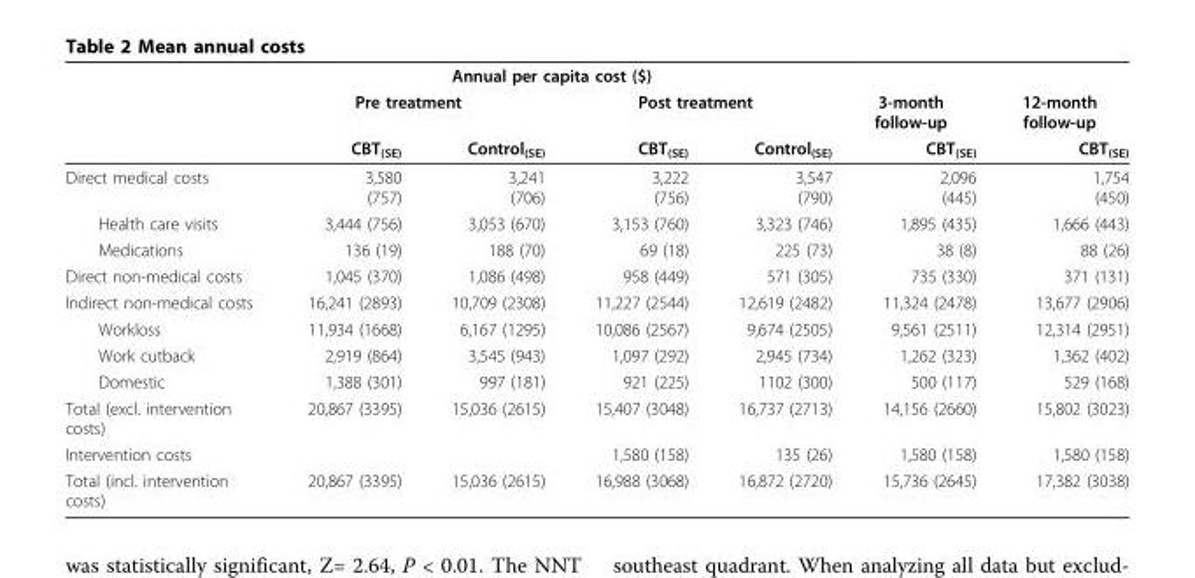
<table><thead><tr><td rowspan="3"></td><td colspan="4">Annual per capita cost ($)</td><td rowspan="3">3-month follow-up CBT<sub>(SE)</sub></td><td rowspan="3">12-month follow-up CBT<sub>(SE)</sub></td></tr><tr><td colspan="2">Pre treatment</td><td colspan="2">Post treatment</td></tr><tr><td>CBT<sub>(SE)</sub></td><td>Control<sub>(SE)</sub></td><td>CBT<sub>(SE)</sub></td><td>Control<sub>(SE)</sub></td></tr></thead><tbody><tr><td>Direct medical costs</td><td>3,580 (757)</td><td>3,241 (706)</td><td>3,222 (756)</td><td>3,547 (790)</td><td>2,096 (445)</td><td>1,754 (450)</td></tr><tr><td>Health care visits</td><td>3,444 (756)</td><td>3,053 (670)</td><td>3,153 (760)</td><td>3,323 (746)</td><td>1,895 (435)</td><td>1,666 (443)</td></tr><tr><td>Medications</td><td>136 (19)</td><td>188 (70)</td><td>69 (18)</td><td>225 (73)</td><td>38 (8)</td><td>88 (26)</td></tr><tr><td>Direct non-medical costs</td><td>1,045 (370)</td><td>1,086 (498)</td><td>958 (449)</td><td>571 (305)</td><td>735 (330)</td><td>371 (131)</td></tr><tr><td>Indirect non-medical costs</td><td>16,241 (2893)</td><td>10,709 (2308)</td><td>11,227 (2544)</td><td>12,619 (2482)</td><td>11,324 (2478)</td><td>13,677 (2906)</td></tr><tr><td>Workloss</td><td>11,934 (1668)</td><td>6,167 (1295)</td><td>10,086 (2567)</td><td>9,674 (2505)</td><td>9,561 (2511)</td><td>12,314 (2951)</td></tr><tr><td>Work cutback</td><td>2,919 (864)</td><td>3,545 (943)</td><td>1,097 (292)</td><td>2,945 (734)</td><td>1,262 (323)</td><td>1,362 (402)</td></tr><tr><td>Domestic</td><td>1,388 (301)</td><td>997 (181)</td><td>921 (225)</td><td>1102 (300)</td><td>500 (117)</td><td>529 (168)</td></tr><tr><td>Total (excl. intervention costs)</td><td>20,867 (3395)</td><td>15,036 (2615)</td><td>15,407 (3048)</td><td>16,737 (2713)</td><td>14,156 (2660)</td><td>15,802 (3023)</td></tr><tr><td>Intervention costs</td><td></td><td></td><td>1,580 (158)</td><td>135 (26)</td><td>1,580 (158)</td><td>1,580 (158)</td></tr><tr><td>Total (incl. intervention costs)</td><td>20,867 (3395)</td><td>15,036 (2615)</td><td>16,988 (3068)</td><td>16,872 (2720)</td><td>15,736 (2645)</td><td>17,382 (3038)</td></tr></tbody></table>